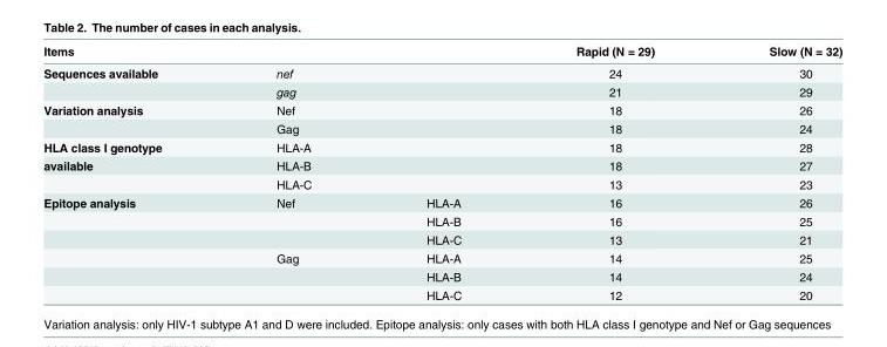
<table><thead><tr><td>Items</td><td></td><td></td><td>Rapid (N = 29)</td><td>Slow (N = 32)</td></tr></thead><tbody><tr><td rowspan="2">Sequences available</td><td>nef</td><td></td><td>24</td><td>30</td></tr><tr><td>gag</td><td></td><td>21</td><td>29</td></tr><tr><td rowspan="2">Variation analysis</td><td>Nef</td><td></td><td>18</td><td>26</td></tr><tr><td>Gag</td><td></td><td>18</td><td>24</td></tr><tr><td>HLA class I genotype</td><td>HLA-A</td><td></td><td>18</td><td>28</td></tr><tr><td rowspan="2">available</td><td>HLA-B</td><td></td><td>18</td><td>27</td></tr><tr><td>HLA-C</td><td></td><td>13</td><td>23</td></tr><tr><td rowspan="6">Epitope analysis</td><td>Nef</td><td>HLA-A</td><td>16</td><td>26</td></tr><tr><td></td><td>HLA-B</td><td>16</td><td>25</td></tr><tr><td></td><td>HLA-C</td><td>13</td><td>21</td></tr><tr><td>Gag</td><td>HLA-A</td><td>14</td><td>25</td></tr><tr><td></td><td>HLA-B</td><td>14</td><td>24</td></tr><tr><td></td><td>HLA-C</td><td>12</td><td>20</td></tr></tbody></table>